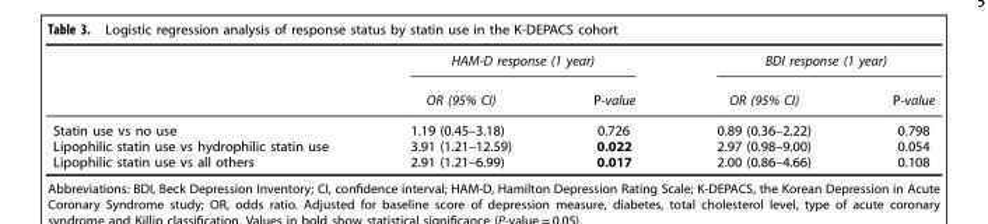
<table><thead><tr><td rowspan="2"></td><td colspan="2">HAM-D response (1 year)</td><td colspan="2">BDI response (1 year)</td></tr><tr><td>OR (95% CI)</td><td>P-value</td><td>OR (95% CI)</td><td>P-value</td></tr></thead><tbody><tr><td>Statin use vs no use</td><td>1.19 (0.45–3.18)</td><td>0.726</td><td>0.89 (0.36–2.22)</td><td>0.798</td></tr><tr><td>Lipophilic statin use vs hydrophilic statin use</td><td>3.91 (1.21–12.59)</td><td>0.022</td><td>2.97 (0.98–9.00)</td><td>0.054</td></tr><tr><td>Lipophilic statin use vs all others</td><td>2.91 (1.21–6.99)</td><td>0.017</td><td>2.00 (0.86–4.66)</td><td>0.108</td></tr></tbody></table>